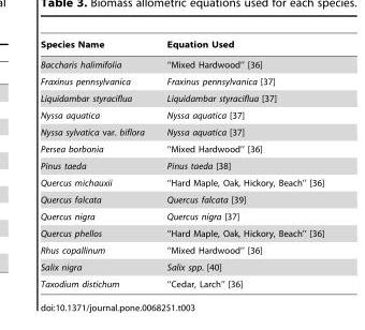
<table><thead><tr><td>Species Name</td><td>Equation Used</td></tr></thead><tbody><tr><td>Baccharis halimifolia</td><td>‘‘Mixed Hardwood’’ [36]</td></tr><tr><td>Fraxinus pennsylvanica</td><td>Fraxinus pennsylvanica [37]</td></tr><tr><td>Liquidambar styraciflua</td><td>Liquidambar styraciflua [37]</td></tr><tr><td>Nyssa aquatica</td><td>Nyssa aquatica [37]</td></tr><tr><td>Nyssa sylvatica var. biflora</td><td>Nyssa aquatica [37]</td></tr><tr><td>Persea borbonia</td><td>‘‘Mixed Hardwood’’ [36]</td></tr><tr><td>Pinus taeda</td><td>Pinus taeda [38]</td></tr><tr><td>Quercus michauxii</td><td>‘‘Hard Maple, Oak, Hickory, Beach’’ [36]</td></tr><tr><td>Quercus falcata</td><td>Quercus falcata [39]</td></tr><tr><td>Quercus nigra</td><td>Quercus nigra [37]</td></tr><tr><td>Quercus phellos</td><td>‘‘Hard Maple, Oak, Hickory, Beach’’ [36]</td></tr><tr><td>Rhus copallinum</td><td>‘‘Mixed Hardwood’’ [36]</td></tr><tr><td>Salix nigra</td><td>Salix spp. [40]</td></tr><tr><td>Taxodium distichum</td><td>‘‘Cedar, Larch’’ [36]</td></tr></tbody></table>